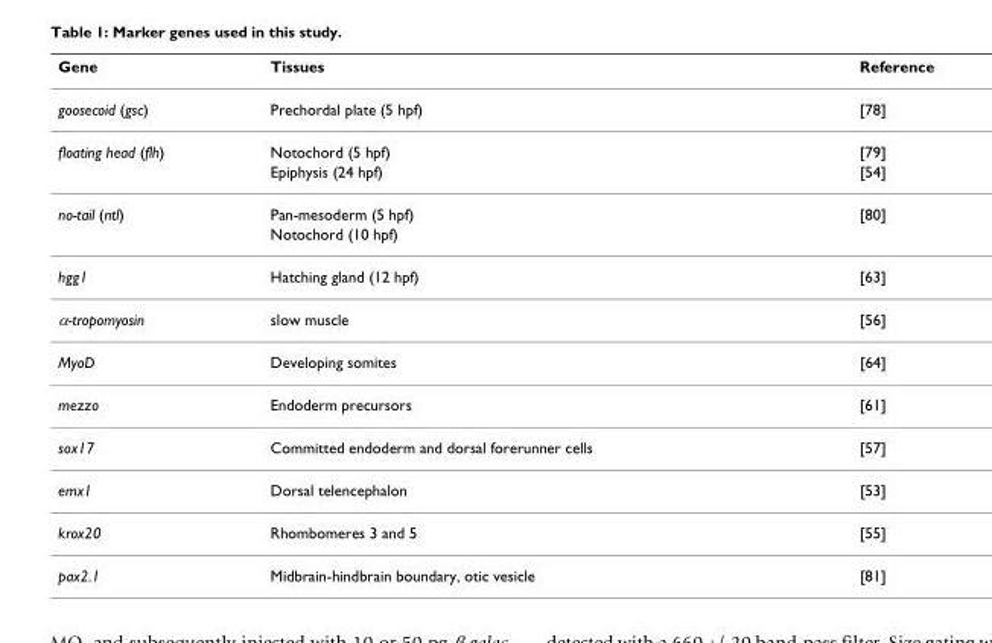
<table><thead><tr><td>Gene</td><td>Tissues</td><td>Reference</td></tr></thead><tbody><tr><td>goosecoid (gsc)</td><td>Prechordal plate (5 hpf)</td><td>[78]</td></tr><tr><td rowspan="2">floating head (flh)</td><td>Notochord (5 hpf)</td><td>[79]</td></tr><tr><td>Epiphysis (24 hpf)</td><td>[54]</td></tr><tr><td rowspan="2">no-tail (ntl)</td><td>Pan-mesoderm (5 hpf)</td><td>[80]</td></tr><tr><td>Notochord (10 hpf)</td><td></td></tr><tr><td>hgg1</td><td>Hatching gland (12 hpf)</td><td>[63]</td></tr><tr><td>α-tropomyosin</td><td>slow muscle</td><td>[56]</td></tr><tr><td>MyoD</td><td>Developing somites</td><td>[64]</td></tr><tr><td>mezzo</td><td>Endoderm precursors</td><td>[61]</td></tr><tr><td>sox17</td><td>Committed endoderm and dorsal forerunner cells</td><td>[57]</td></tr><tr><td>emx1</td><td>Dorsal telencephalon</td><td>[53]</td></tr><tr><td>krox20</td><td>Rhombomeres 3 and 5</td><td>[55]</td></tr><tr><td>pax2.1</td><td>Midbrain-hindbrain boundary, otic vesicle</td><td>[81]</td></tr></tbody></table>